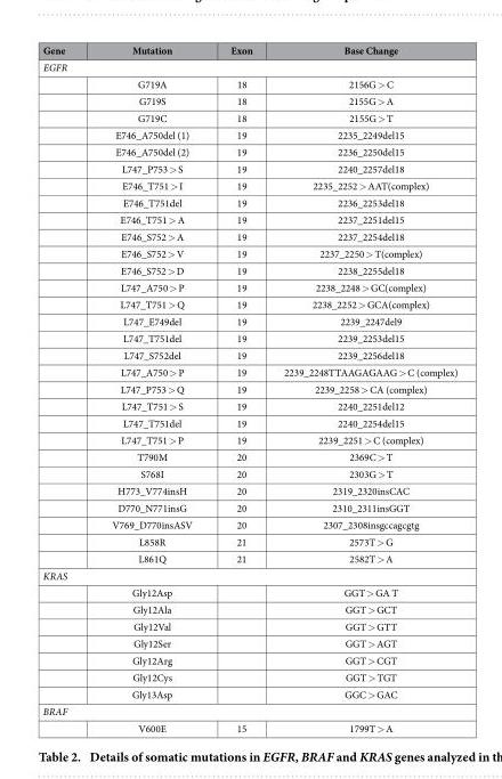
<table><thead><tr><td>Gene</td><td>Mutation</td><td>Exon</td><td>Base Change</td></tr></thead><tbody><tr><td colspan="4">EGFR</td></tr><tr><td></td><td>G719A</td><td>18</td><td>2156G &gt; C</td></tr><tr><td></td><td>G719S</td><td>18</td><td>2155G &gt; A</td></tr><tr><td></td><td>G719C</td><td>18</td><td>2155G &gt; T</td></tr><tr><td></td><td>E746_A750del (1)</td><td>19</td><td>2235_2249del15</td></tr><tr><td></td><td>E746_A750del (2)</td><td>19</td><td>2236_2250del15</td></tr><tr><td></td><td>L747_P753 &gt; S</td><td>19</td><td>2240_2257del18</td></tr><tr><td></td><td>E746_T751 &gt; I</td><td>19</td><td>2235_2252 &gt; AAT(complex)</td></tr><tr><td></td><td>E746_T751del</td><td>19</td><td>2236_2253del18</td></tr><tr><td></td><td>E746_T751 &gt; A</td><td>19</td><td>2237_2251del15</td></tr><tr><td></td><td>E746_S752 &gt; A</td><td>19</td><td>2237_2254del18</td></tr><tr><td></td><td>E746_S752 &gt; V</td><td>19</td><td>2237_2250 &gt; T(complex)</td></tr><tr><td></td><td>E746_S752 &gt; D</td><td>19</td><td>2238_2255del18</td></tr><tr><td></td><td>L747_A750 &gt; P</td><td>19</td><td>2238_2248 &gt; GC(complex)</td></tr><tr><td></td><td>L747_T751 &gt; Q</td><td>19</td><td>2238_2252 &gt; GCA(complex)</td></tr><tr><td></td><td>L747_E749del</td><td>19</td><td>2239_2247del9</td></tr><tr><td></td><td>L747_T751del</td><td>19</td><td>2239_2253del15</td></tr><tr><td></td><td>L747_S752del</td><td>19</td><td>2239_2256del18</td></tr><tr><td></td><td>L747_A750 &gt; P</td><td>19</td><td>2239_2248TTAAGAGAAG &gt; C (complex)</td></tr><tr><td></td><td>L747_P753 &gt; Q</td><td>19</td><td>2239_2258 &gt; CA (complex)</td></tr><tr><td></td><td>L747_T751 &gt; S</td><td>19</td><td>2240_2251del12</td></tr><tr><td></td><td>L747_T751del</td><td>19</td><td>2240_2254del15</td></tr><tr><td></td><td>L747_T751 &gt; P</td><td>19</td><td>2239_2251 &gt; C (complex)</td></tr><tr><td></td><td>T790M</td><td>20</td><td>2369C &gt; T</td></tr><tr><td></td><td>S768I</td><td>20</td><td>2303G &gt; T</td></tr><tr><td></td><td>H773_V774insH</td><td>20</td><td>2319_2320insCAC</td></tr><tr><td></td><td>D770_N771insG</td><td>20</td><td>2310_2311insGGT</td></tr><tr><td></td><td>V769_D770insASV</td><td>20</td><td>2307_2308insgccagcgtg</td></tr><tr><td></td><td>L858R</td><td>21</td><td>2573T &gt; G</td></tr><tr><td></td><td>L861Q</td><td>21</td><td>2582T &gt; A</td></tr><tr><td colspan="4">KRAS</td></tr><tr><td></td><td>Gly12Asp</td><td></td><td>GGT &gt; GA T</td></tr><tr><td></td><td>Gly12Ala</td><td></td><td>GGT &gt; GCT</td></tr><tr><td></td><td>Gly12Val</td><td></td><td>GGT &gt; GTT</td></tr><tr><td></td><td>Gly12Ser</td><td></td><td>GGT &gt; AGT</td></tr><tr><td></td><td>Gly12Arg</td><td></td><td>GGT &gt; CGT</td></tr><tr><td></td><td>Gly12Cys</td><td></td><td>GGT &gt; TGT</td></tr><tr><td></td><td>Gly13Asp</td><td></td><td>GGC &gt; GAC</td></tr><tr><td colspan="4">BRAF</td></tr><tr><td></td><td>V600E</td><td>15</td><td>1799T &gt; A</td></tr></tbody></table>